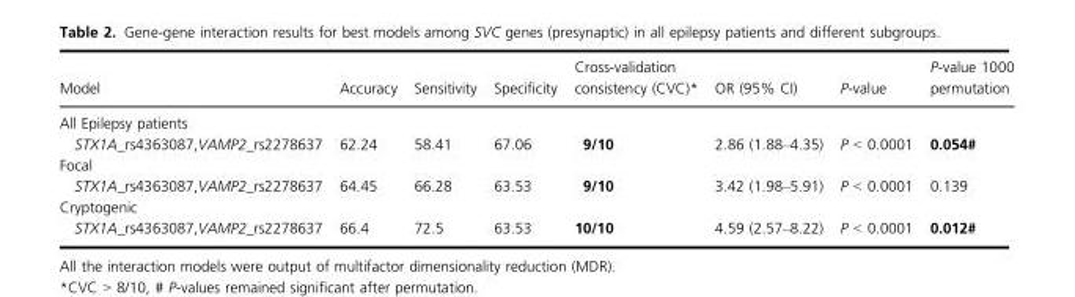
<table><thead><tr><td>Model</td><td>Accuracy</td><td>Sensitivity</td><td>Specificity</td><td>Cross-validation consistency (CVC)*</td><td>OR (95% CI)</td><td>P-value</td><td>P-value 1000 permutation</td></tr></thead><tbody><tr><td colspan="8">All Epilepsy patients</td></tr><tr><td>STX1A_rs4363087,VAMP2_rs2278637</td><td>62.24</td><td>58.41</td><td>67.06</td><td>9/10</td><td>2.86 (1.88–4.35)</td><td>P &lt; 0.0001</td><td>0.054#</td></tr><tr><td colspan="8">Focal</td></tr><tr><td>STX1A_rs4363087,VAMP2_rs2278637</td><td>64.45</td><td>66.28</td><td>63.53</td><td>9/10</td><td>3.42 (1.98–5.91)</td><td>P &lt; 0.0001</td><td>0.139</td></tr><tr><td colspan="8">Cryptogenic</td></tr><tr><td>STX1A_rs4363087,VAMP2_rs2278637</td><td>66.4</td><td>72.5</td><td>63.53</td><td>10/10</td><td>4.59 (2.57–8.22)</td><td>P &lt; 0.0001</td><td>0.012#</td></tr></tbody></table>